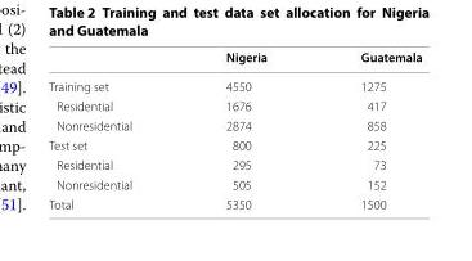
<table><thead><tr><td></td><td>Nigeria</td><td>Guatemala</td></tr></thead><tbody><tr><td>Training set</td><td>4550</td><td>1275</td></tr><tr><td>Residential</td><td>1676</td><td>417</td></tr><tr><td>Nonresidential</td><td>2874</td><td>858</td></tr><tr><td>Test set</td><td>800</td><td>225</td></tr><tr><td>Residential</td><td>295</td><td>73</td></tr><tr><td>Nonresidential</td><td>505</td><td>152</td></tr><tr><td>Total</td><td>5350</td><td>1500</td></tr></tbody></table>